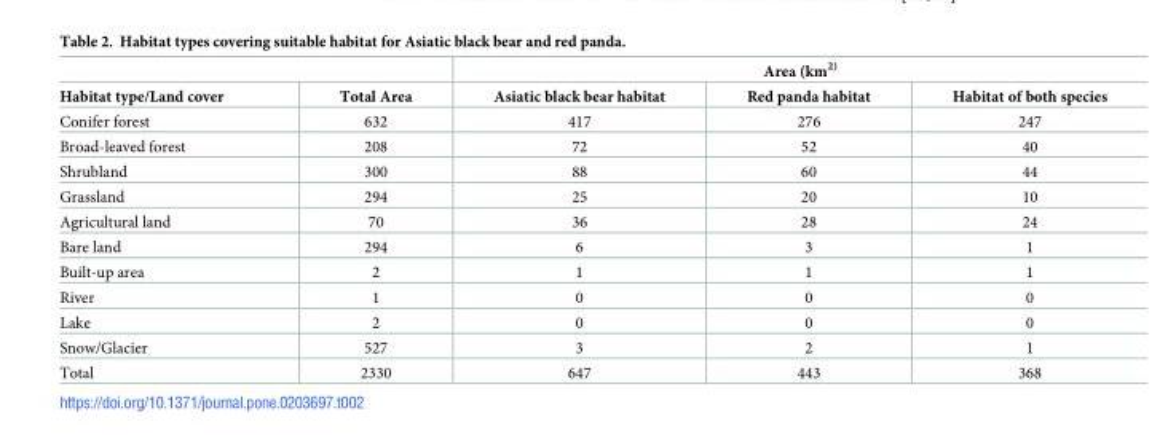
<table><thead><tr><td rowspan="2">Habitat type/Land cover</td><td rowspan="2">Total Area</td><td colspan="3">Area (km<sup>2)</sup></td></tr><tr><td>Asiatic black bear habitat</td><td>Red panda habitat</td><td>Habitat of both species</td></tr></thead><tbody><tr><td>Conifer forest</td><td>632</td><td>417</td><td>276</td><td>247</td></tr><tr><td>Broad-leaved forest</td><td>208</td><td>72</td><td>52</td><td>40</td></tr><tr><td>Shrubland</td><td>300</td><td>88</td><td>60</td><td>44</td></tr><tr><td>Grassland</td><td>294</td><td>25</td><td>20</td><td>10</td></tr><tr><td>Agricultural land</td><td>70</td><td>36</td><td>28</td><td>24</td></tr><tr><td>Bare land</td><td>294</td><td>6</td><td>3</td><td>1</td></tr><tr><td>Built-up area</td><td>2</td><td>1</td><td>1</td><td>1</td></tr><tr><td>River</td><td>1</td><td>0</td><td>0</td><td>0</td></tr><tr><td>Lake</td><td>2</td><td>0</td><td>0</td><td>0</td></tr><tr><td>Snow/Glacier</td><td>527</td><td>3</td><td>2</td><td>1</td></tr><tr><td>Total</td><td>2330</td><td>647</td><td>443</td><td>368</td></tr></tbody></table>